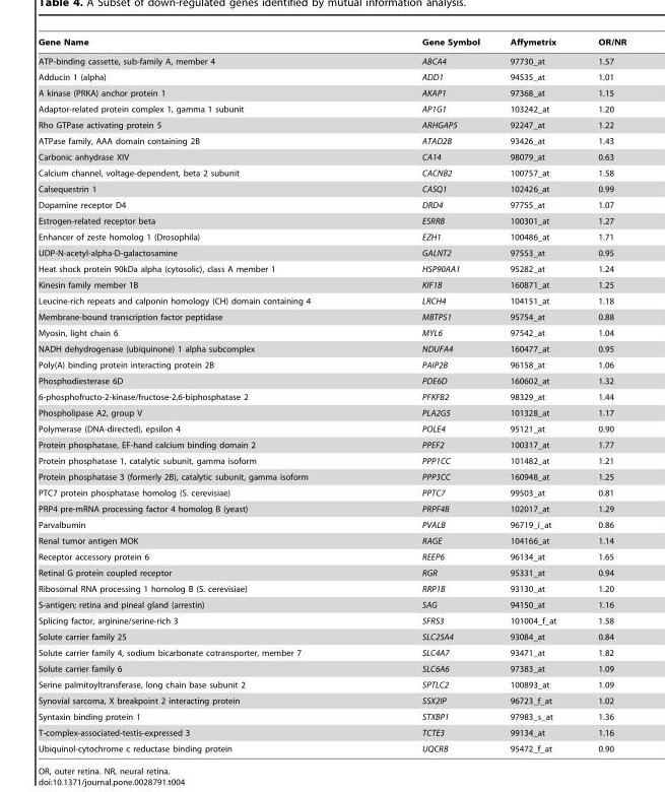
<table><thead><tr><td>Gene Name</td><td>Gene Symbol</td><td>Affymetrix</td><td>OR/NR</td></tr></thead><tbody><tr><td>ATP-binding cassette, sub-family A, member 4</td><td>ABCA4</td><td>97730_at</td><td>1.57</td></tr><tr><td>Adducin 1 (alpha)</td><td>ADD1</td><td>94535_at</td><td>1.01</td></tr><tr><td>A kinase (PRKA) anchor protein 1</td><td>AKAP1</td><td>97368_at</td><td>1.15</td></tr><tr><td>Adaptor-related protein complex 1, gamma 1 subunit</td><td>AP1G1</td><td>103242_at</td><td>1.20</td></tr><tr><td>Rho GTPase activating protein 5</td><td>ARHGAP5</td><td>92247_at</td><td>1.22</td></tr><tr><td>ATPase family, AAA domain containing 2B</td><td>ATAD2B</td><td>93426_at</td><td>1.43</td></tr><tr><td>Carbonic anhydrase XIV</td><td>CA14</td><td>98079_at</td><td>0.63</td></tr><tr><td>Calcium channel, voltage-dependent, beta 2 subunit</td><td>CACNB2</td><td>100757_at</td><td>1.58</td></tr><tr><td>Calsequestrin 1</td><td>CASQ1</td><td>102426_at</td><td>0.99</td></tr><tr><td>Dopamine receptor D4</td><td>DRD4</td><td>97755_at</td><td>1.07</td></tr><tr><td>Estrogen-related receptor beta</td><td>ESRRB</td><td>100301_at</td><td>1.27</td></tr><tr><td>Enhancer of zeste homolog 1 (Drosophila)</td><td>EZH1</td><td>100486_at</td><td>1.71</td></tr><tr><td>UDP-N-acetyl-alpha-D-galactosamine</td><td>GALNT2</td><td>97553_at</td><td>0.95</td></tr><tr><td>Heat shock protein 90kDa alpha (cytosolic), class A member 1</td><td>HSP90AA1</td><td>95282_at</td><td>1.24</td></tr><tr><td>Kinesin family member 1B</td><td>KIF1B</td><td>160871_at</td><td>1.25</td></tr><tr><td>Leucine-rich repeats and calponin homology (CH) domain containing 4</td><td>LRCH4</td><td>104151_at</td><td>1.18</td></tr><tr><td>Membrane-bound transcription factor peptidase</td><td>MBTPS1</td><td>95754_at</td><td>0.88</td></tr><tr><td>Myosin, light chain 6</td><td>MYL6</td><td>97542_at</td><td>1.04</td></tr><tr><td>NADH dehydrogenase (ubiquinone) 1 alpha subcomplex</td><td>NDUFA4</td><td>160477_at</td><td>0.95</td></tr><tr><td>Poly(A) binding protein interacting protein 2B</td><td>PAIP2B</td><td>96158_at</td><td>1.06</td></tr><tr><td>Phosphodiesterase 6D</td><td>PDE6D</td><td>160602_at</td><td>1.32</td></tr><tr><td>6-phosphofructo-2-kinase/fructose-2,6-biphosphatase 2</td><td>PFKFB2</td><td>98329_at</td><td>1.44</td></tr><tr><td>Phospholipase A2, group V</td><td>PLA2G5</td><td>101328_at</td><td>1.17</td></tr><tr><td>Polymerase (DNA-directed), epsilon 4</td><td>POLE4</td><td>95121_at</td><td>0.90</td></tr><tr><td>Protein phosphatase, EF-hand calcium binding domain 2</td><td>PPEF2</td><td>100317_at</td><td>1.77</td></tr><tr><td>Protein phosphatase 1, catalytic subunit, gamma isoform</td><td>PPP1CC</td><td>101482_at</td><td>1.21</td></tr><tr><td>Protein phosphatase 3 (formerly 2B), catalytic subunit, gamma isoform</td><td>PPP3CC</td><td>160948_at</td><td>1.25</td></tr><tr><td>PTC7 protein phosphatase homolog (S. cerevisiae)</td><td>PPTC7</td><td>99503_at</td><td>0.81</td></tr><tr><td>PRP4 pre-mRNA processing factor 4 homolog B (yeast)</td><td>PRPF4B</td><td>102017_at</td><td>1.29</td></tr><tr><td>Parvalbumin</td><td>PVALB</td><td>96719_i_at</td><td>0.86</td></tr><tr><td>Renal tumor antigen MOK</td><td>RAGE</td><td>104166_at</td><td>1.14</td></tr><tr><td>Receptor accessory protein 6</td><td>REEP6</td><td>96134_at</td><td>1.65</td></tr><tr><td>Retinal G protein coupled receptor</td><td>RGR</td><td>95331_at</td><td>0.94</td></tr><tr><td>Ribosomal RNA processing 1 homolog B (S. cerevisiae)</td><td>RRP1B</td><td>93130_at</td><td>1.20</td></tr><tr><td>S-antigen; retina and pineal gland (arrestin)</td><td>SAG</td><td>94150_at</td><td>1.16</td></tr><tr><td>Splicing factor, arginine/serine-rich 3</td><td>SFRS3</td><td>101004_f_at</td><td>1.58</td></tr><tr><td>Solute carrier family 25</td><td>SLC25A4</td><td>93084_at</td><td>0.84</td></tr><tr><td>Solute carrier family 4, sodium bicarbonate cotransporter, member 7</td><td>SLC4A7</td><td>93471_at</td><td>1.82</td></tr><tr><td>Solute carrier family 6</td><td>SLC6A6</td><td>97383_at</td><td>1.09</td></tr><tr><td>Serine palmitoyltransferase, long chain base subunit 2</td><td>SPTLC2</td><td>100893_at</td><td>1.09</td></tr><tr><td>Synovial sarcoma, X breakpoint 2 interacting protein</td><td>SSX2IP</td><td>96723_f_at</td><td>1.02</td></tr><tr><td>Syntaxin binding protein 1</td><td>STXBP1</td><td>97983_s_at</td><td>1.36</td></tr><tr><td>T-complex-associated-testis-expressed 3</td><td>TCTE3</td><td>99134_at</td><td>1.16</td></tr><tr><td>Ubiquinol-cytochrome c reductase binding protein</td><td>UQCRB</td><td>95472_f_at</td><td>0.90</td></tr></tbody></table>